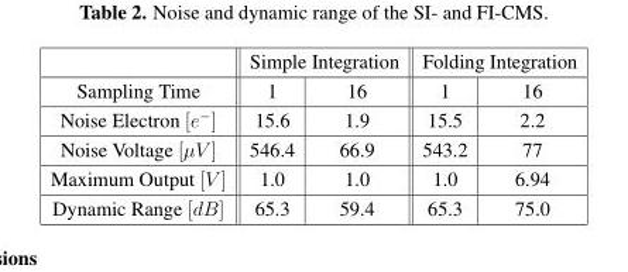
<table><thead><tr><td rowspan="2">Sampling Time</td><td colspan="2">Simple Integration</td><td colspan="2">Folding Integration</td></tr><tr><td>1</td><td>16</td><td>1</td><td>16</td></tr></thead><tbody><tr><td>Noise Electron [e<sup>−</sup>]</td><td>15.6</td><td>1.9</td><td>15.5</td><td>2.2</td></tr><tr><td>Noise Voltage [µV ]</td><td>546.4</td><td>66.9</td><td>543.2</td><td>77</td></tr><tr><td>Maximum Output [V ]</td><td>1.0</td><td>1.0</td><td>1.0</td><td>6.94</td></tr><tr><td>Dynamic Range [dB]</td><td>65.3</td><td>59.4</td><td>65.3</td><td>75.0</td></tr></tbody></table>